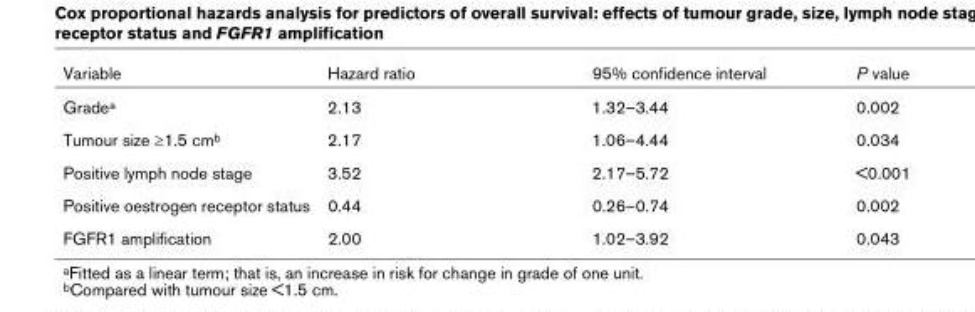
<table><thead><tr><td>Variable</td><td>Hazard ratio</td><td>95% confidence interval</td><td>P value</td></tr></thead><tbody><tr><td>Gradea</td><td>2.13</td><td>1.32–3.44</td><td>0.002</td></tr><tr><td>Tumour size ≥1.5 cmb</td><td>2.17</td><td>1.06–4.44</td><td>0.034</td></tr><tr><td>Positive lymph node stage</td><td>3.52</td><td>2.17–5.72</td><td>&lt;0.001</td></tr><tr><td>Positive oestrogen receptor status</td><td>0.44</td><td>0.26–0.74</td><td>0.002</td></tr><tr><td>FGFR1 amplification</td><td>2.00</td><td>1.02–3.92</td><td>0.043</td></tr></tbody></table>